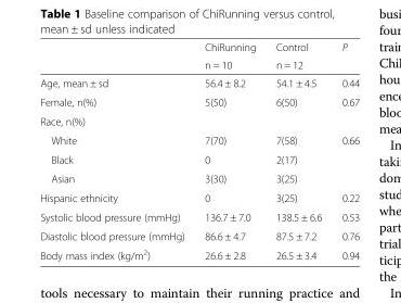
<table><thead><tr><td rowspan="2"></td><td rowspan="2">ChiRunning n = 10</td><td rowspan="2">Control n = 12</td><td rowspan="2">P</td></tr><tr></tr></thead><tbody><tr><td>Age, mean ± sd</td><td>56.4 ± 8.2</td><td>54.1 ± 4.5</td><td>0.44</td></tr><tr><td>Female, n(%)</td><td>5(50)</td><td>6(50)</td><td>0.67</td></tr><tr><td colspan="4">Race, n(%)</td></tr><tr><td>White</td><td>7(70)</td><td>7(58)</td><td>0.66</td></tr><tr><td>Black</td><td>0</td><td>2(17)</td><td></td></tr><tr><td>Asian</td><td>3(30)</td><td>3(25)</td><td></td></tr><tr><td>Hispanic ethnicity</td><td>0</td><td>3(25)</td><td>0.22</td></tr><tr><td>Systolic blood pressure (mmHg)</td><td>136.7 ± 7.0</td><td>138.5 ± 6.6</td><td>0.53</td></tr><tr><td>Diastolic blood pressure (mmHg)</td><td>86.6 ± 4.7</td><td>87.5 ± 7.2</td><td>0.76</td></tr><tr><td>Body mass index (kg/m<sup>2</sup>)</td><td>26.6 ± 2.8</td><td>26.5 ± 3.4</td><td>0.94</td></tr></tbody></table>